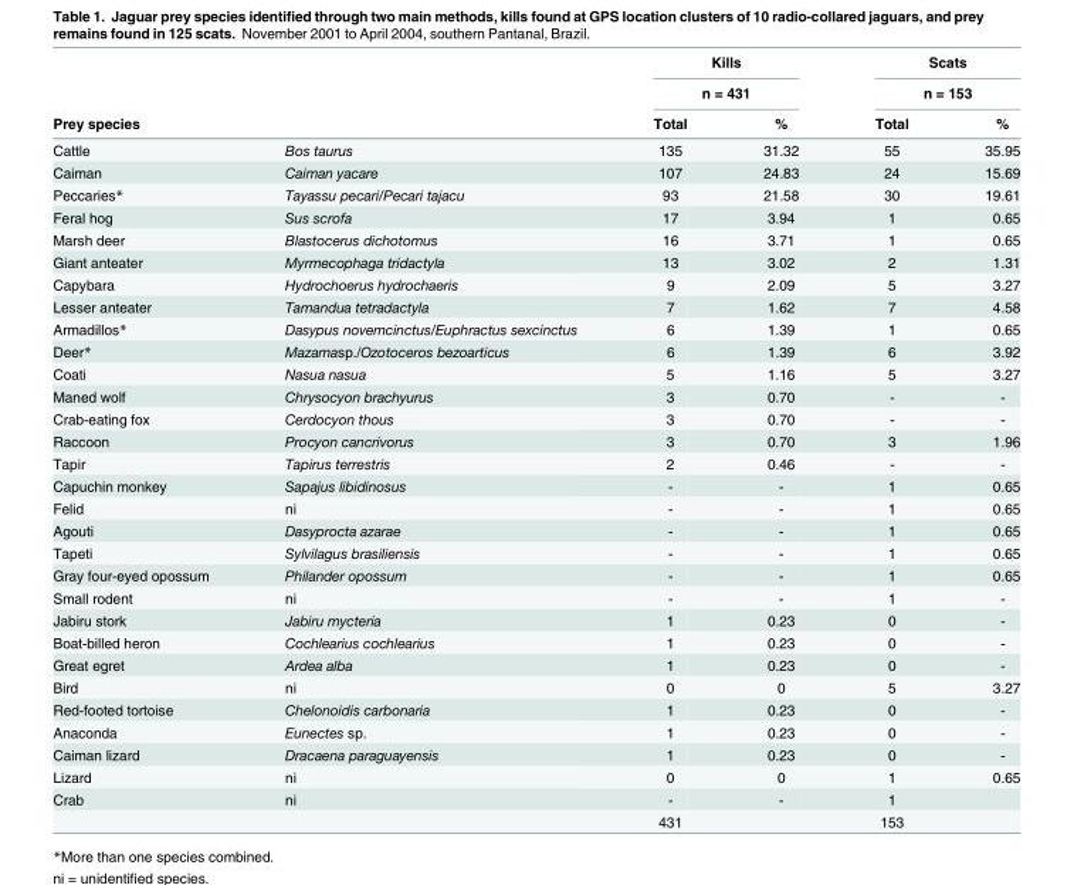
<table><thead><tr><td rowspan="3">Prey species</td><td rowspan="3"></td><td rowspan="2" colspan="2">Kills n = 431</td><td rowspan="2" colspan="2">Scats n = 153</td></tr><tr></tr><tr><td>Total</td><td>%</td><td>Total</td><td>%</td></tr></thead><tbody><tr><td>Cattle</td><td>Bos taurus</td><td>135</td><td>31.32</td><td>55</td><td>35.95</td></tr><tr><td>Caiman</td><td>Caiman yacare</td><td>107</td><td>24.83</td><td>24</td><td>15.69</td></tr><tr><td>Peccaries*</td><td>Tayassu pecari/Pecari tajacu</td><td>93</td><td>21.58</td><td>30</td><td>19.61</td></tr><tr><td>Feral hog</td><td>Sus scrofa</td><td>17</td><td>3.94</td><td>1</td><td>0.65</td></tr><tr><td>Marsh deer</td><td>Blastocerus dichotomus</td><td>16</td><td>3.71</td><td>1</td><td>0.65</td></tr><tr><td>Giant anteater</td><td>Myrmecophaga tridactyla</td><td>13</td><td>3.02</td><td>2</td><td>1.31</td></tr><tr><td>Capybara</td><td>Hydrochoerus hydrochaeris</td><td>9</td><td>2.09</td><td>5</td><td>3.27</td></tr><tr><td>Lesser anteater</td><td>Tamandua tetradactyla</td><td>7</td><td>1.62</td><td>7</td><td>4.58</td></tr><tr><td>Armadillos*</td><td>Dasypus novemcinctus/Euphractus sexcinctus</td><td>6</td><td>1.39</td><td>1</td><td>0.65</td></tr><tr><td>Deer*</td><td>Mazamasp./Ozotoceros bezoarticus</td><td>6</td><td>1.39</td><td>6</td><td>3.92</td></tr><tr><td>Coati</td><td>Nasua nasua</td><td>5</td><td>1.16</td><td>5</td><td>3.27</td></tr><tr><td>Maned wolf</td><td>Chrysocyon brachyurus</td><td>3</td><td>0.70</td><td>-</td><td>-</td></tr><tr><td>Crab-eating fox</td><td>Cerdocyon thous</td><td>3</td><td>0.70</td><td>-</td><td>-</td></tr><tr><td>Raccoon</td><td>Procyon cancrivorus</td><td>3</td><td>0.70</td><td>3</td><td>1.96</td></tr><tr><td>Tapir</td><td>Tapirus terrestris</td><td>2</td><td>0.46</td><td>-</td><td>-</td></tr><tr><td>Capuchin monkey</td><td>Sapajus libidinosus</td><td>-</td><td>-</td><td>1</td><td>0.65</td></tr><tr><td>Felid</td><td>ni</td><td>-</td><td>-</td><td>1</td><td>0.65</td></tr><tr><td>Agouti</td><td>Dasyprocta azarae</td><td>-</td><td>-</td><td>1</td><td>0.65</td></tr><tr><td>Tapeti</td><td>Sylvilagus brasiliensis</td><td>-</td><td>-</td><td>1</td><td>0.65</td></tr><tr><td>Gray four-eyed opossum</td><td>Philander opossum</td><td>-</td><td>-</td><td>1</td><td>0.65</td></tr><tr><td>Small rodent</td><td>ni</td><td>-</td><td>-</td><td>1</td><td>-</td></tr><tr><td>Jabiru stork</td><td>Jabiru mycteria</td><td>1</td><td>0.23</td><td>0</td><td>-</td></tr><tr><td>Boat-billed heron</td><td>Cochlearius cochlearius</td><td>1</td><td>0.23</td><td>0</td><td>-</td></tr><tr><td>Great egret</td><td>Ardea alba</td><td>1</td><td>0.23</td><td>0</td><td>-</td></tr><tr><td>Bird</td><td>ni</td><td>0</td><td>0</td><td>5</td><td>3.27</td></tr><tr><td>Red-footed tortoise</td><td>Chelonoidis carbonaria</td><td>1</td><td>0.23</td><td>0</td><td>-</td></tr><tr><td>Anaconda</td><td>Eunectes sp.</td><td>1</td><td>0.23</td><td>0</td><td>-</td></tr><tr><td>Caiman lizard</td><td>Dracaena paraguayensis</td><td>1</td><td>0.23</td><td>0</td><td>-</td></tr><tr><td>Lizard</td><td>ni</td><td>0</td><td>0</td><td>1</td><td>0.65</td></tr><tr><td rowspan="2">Crab</td><td>ni</td><td>-</td><td>-</td><td>1</td><td></td></tr><tr><td></td><td>431</td><td></td><td>153</td><td></td></tr></tbody></table>